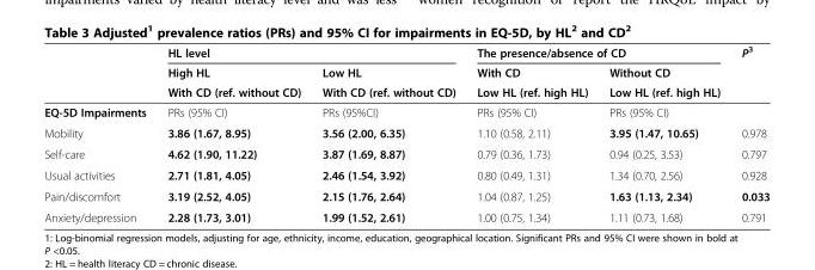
<table><thead><tr><td rowspan="3"></td><td colspan="2">HL level</td><td colspan="2">The presence/absence of CD</td><td rowspan="3">P<sup>3</sup></td></tr><tr><td rowspan="2">High HL With CD (ref. without CD)</td><td rowspan="2">Low HL With CD (ref. without CD)</td><td rowspan="2">With CD Low HL (ref. high HL)</td><td rowspan="2">Without CD Low HL (ref. high HL)</td></tr><tr></tr></thead><tbody><tr><td>EQ-5D Impairments</td><td>PRs (95% CI)</td><td>PRs (95%CI)</td><td>PRs (95% CI)</td><td>PRs (95% CI)</td><td></td></tr><tr><td>Mobility</td><td>3.86 (1.67, 8.95)</td><td>3.56 (2.00, 6.35)</td><td>1.10 (0.58, 2.11)</td><td>3.95 (1.47, 10.65)</td><td>0.978</td></tr><tr><td>Self-care</td><td>4.62 (1.90, 11.22)</td><td>3.87 (1.69, 8.87)</td><td>0.79 (0.36, 1.73)</td><td>0.94 (0.25, 3.53)</td><td>0.797</td></tr><tr><td>Usual activities</td><td>2.71 (1.81, 4.05)</td><td>2.46 (1.54, 3.92)</td><td>0.80 (0.49, 1.31)</td><td>1.34 (0.70, 2.56)</td><td>0.928</td></tr><tr><td>Pain/discomfort</td><td>3.19 (2.52, 4.05)</td><td>2.15 (1.76, 2.64)</td><td>1.04 (0.87, 1.25)</td><td>1.63 (1.13, 2.34)</td><td>0.033</td></tr><tr><td>Anxiety/depression</td><td>2.28 (1.73, 3.01)</td><td>1.99 (1.52, 2.61)</td><td>1.00 (0.75, 1.34)</td><td>1.11 (0.73, 1.68)</td><td>0.791</td></tr></tbody></table>